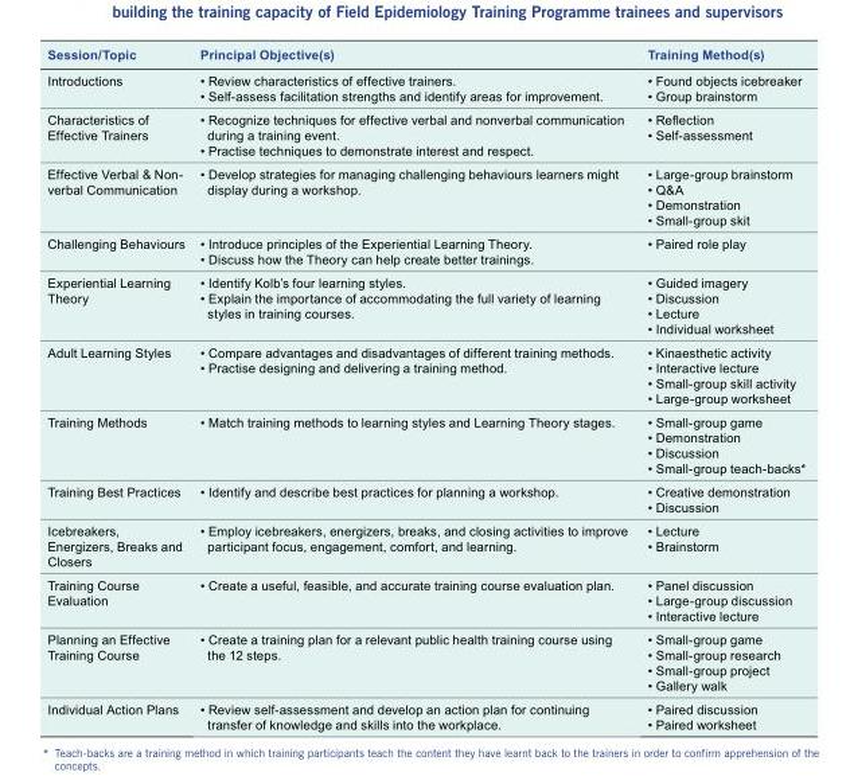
<table><thead><tr><td>Session/Topic</td><td>Principal Objective(s)</td><td>Training Method(s)</td></tr></thead><tbody><tr><td>Introductions</td><td>• Review characteristics of effective trainers. • Self-assess facilitation strengths and identify areas for improvement.</td><td>• Found objects icebreaker • Group brainstorm</td></tr><tr><td>Characteristics of Effective Trainers</td><td>• Recognize techniques for effective verbal and nonverbal communication during a training event. • Practise techniques to demonstrate interest and respect.</td><td>• Reflection • Self-assessment</td></tr><tr><td>Effective Verbal &amp; Non- verbal Communication</td><td>• Develop strategies for managing challenging behaviours learners might display during a workshop.</td><td>• Large-group brainstorm • Q&amp;A • Demonstration • Small-group skit</td></tr><tr><td>Challenging Behaviours</td><td>• Introduce principles of the Experiential Learning Theory. • Discuss how the Theory can help create better trainings.</td><td>• Paired role play</td></tr><tr><td>Experiential Learning Theory</td><td>• Identify Kolb’s four learning styles. • Explain the importance of accommodating the full variety of learning styles in training courses.</td><td>• Guided imagery • Discussion • Lecture • Individual worksheet</td></tr><tr><td>Adult Learning Styles</td><td>• Compare advantages and disadvantages of different training methods. • Practise designing and delivering a training method.</td><td>• Kinaesthetic activity • Interactive lecture • Small-group skill activity • Large-group worksheet</td></tr><tr><td>Training Methods</td><td>• Match training methods to learning styles and Learning Theory stages.</td><td>• Small-group game • Demonstration • Discussion • Small-group teach-backs*</td></tr><tr><td>Training Best Practices</td><td>• Identify and describe best practices for planning a workshop.</td><td>• Creative demonstration • Discussion</td></tr><tr><td>Icebreakers, Energizers, Breaks and Closers</td><td>• Employ icebreakers, energizers, breaks, and closing activities to improve participant focus, engagement, comfort, and learning.</td><td>• Lecture • Brainstorm</td></tr><tr><td>Training Course Evaluation</td><td>• Create a useful, feasible, and accurate training course evaluation plan.</td><td>• Panel discussion • Large-group discussion • Interactive lecture</td></tr><tr><td>Planning an Effective Training Course</td><td>• Create a training plan for a relevant public health training course using the 12 steps.</td><td>• Small-group game • Small-group research • Small-group project • Gallery walk</td></tr><tr><td>Individual Action Plans</td><td>• Review self-assessment and develop an action plan for continuing transfer of knowledge and skills into the workplace.</td><td>• Paired discussion • Paired worksheet</td></tr></tbody></table>